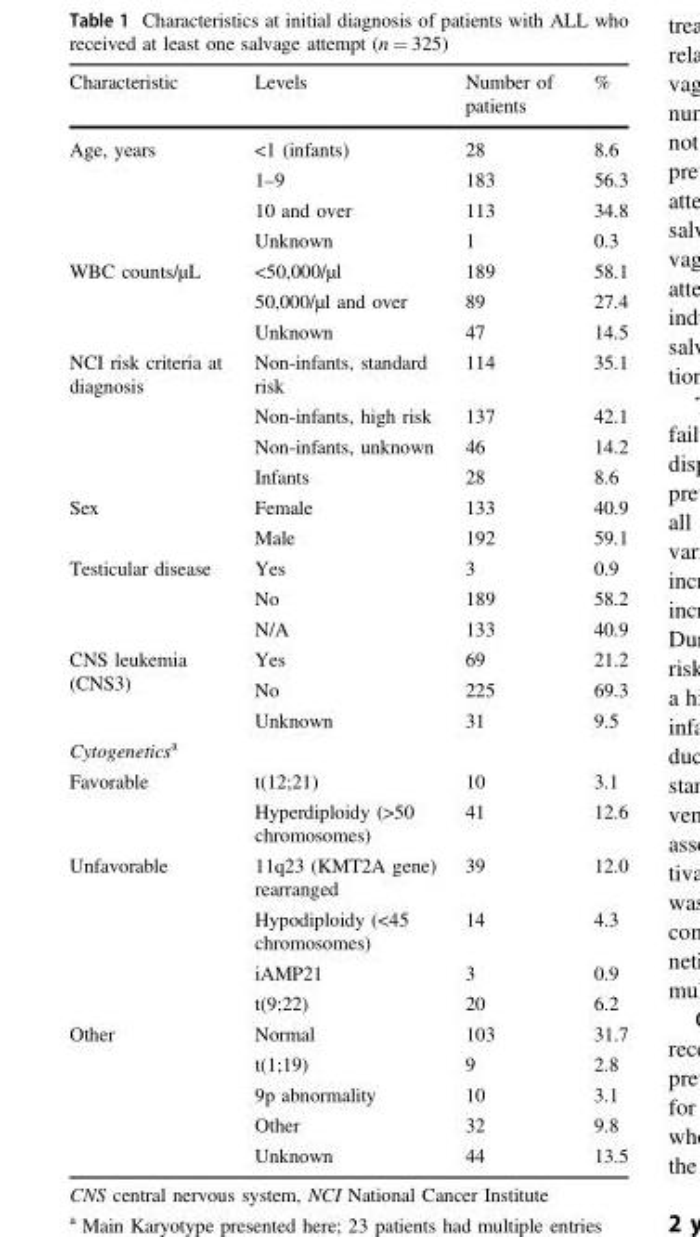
<table><thead><tr><td>Characteristic</td><td>Levels</td><td>Number of patients</td><td>%</td></tr></thead><tbody><tr><td rowspan="4">Age, years</td><td>&lt;1 (infants)</td><td>28</td><td>8.6</td></tr><tr><td>1–9</td><td>183</td><td>56.3</td></tr><tr><td>10 and over</td><td>113</td><td>34.8</td></tr><tr><td>Unknown</td><td>1</td><td>0.3</td></tr><tr><td rowspan="3">WBC counts/µL</td><td>&lt;50,000/µl</td><td>189</td><td>58.1</td></tr><tr><td>50,000/µl and over</td><td>89</td><td>27.4</td></tr><tr><td>Unknown</td><td>47</td><td>14.5</td></tr><tr><td rowspan="4">NCI risk criteria at diagnosis</td><td>Non-infants, standard risk</td><td>114</td><td>35.1</td></tr><tr><td>Non-infants, high risk</td><td>137</td><td>42.1</td></tr><tr><td>Non-infants, unknown</td><td>46</td><td>14.2</td></tr><tr><td>Infants</td><td>28</td><td>8.6</td></tr><tr><td rowspan="2">Sex</td><td>Female</td><td>133</td><td>40.9</td></tr><tr><td>Male</td><td>192</td><td>59.1</td></tr><tr><td rowspan="3">Testicular disease</td><td>Yes</td><td>3</td><td>0.9</td></tr><tr><td>No</td><td>189</td><td>58.2</td></tr><tr><td>N/A</td><td>133</td><td>40.9</td></tr><tr><td rowspan="3">CNS leukemia (CNS3)</td><td>Yes</td><td>69</td><td>21.2</td></tr><tr><td>No</td><td>225</td><td>69.3</td></tr><tr><td>Unknown</td><td>31</td><td>9.5</td></tr><tr><td colspan="4">Cytogenetics<sup>a</sup></td></tr><tr><td rowspan="2">Favorable</td><td>t(12;21)</td><td>10</td><td>3.1</td></tr><tr><td>Hyperdiploidy (&gt;50 chromosomes)</td><td>41</td><td>12.6</td></tr><tr><td rowspan="4">Unfavorable</td><td>11q23 (KMT2A gene) rearranged</td><td>39</td><td>12.0</td></tr><tr><td>Hypodiploidy (&lt;45 chromosomes)</td><td>14</td><td>4.3</td></tr><tr><td>iAMP21</td><td>3</td><td>0.9</td></tr><tr><td>t(9;22)</td><td>20</td><td>6.2</td></tr><tr><td rowspan="5">Other</td><td>Normal</td><td>103</td><td>31.7</td></tr><tr><td>t(1;19)</td><td>9</td><td>2.8</td></tr><tr><td>9p abnormality</td><td>10</td><td>3.1</td></tr><tr><td>Other</td><td>32</td><td>9.8</td></tr><tr><td>Unknown</td><td>44</td><td>13.5</td></tr></tbody></table>